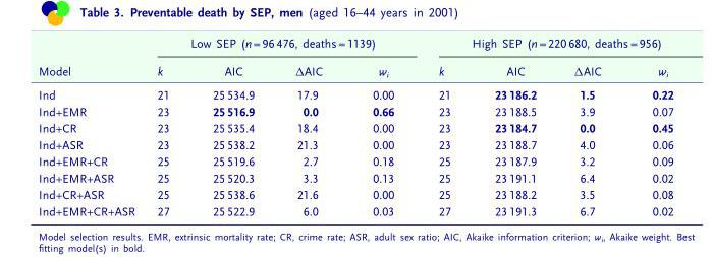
<table><thead><tr><td rowspan="2">Model</td><td colspan="4">Low SEP (n = 96 476, deaths = 1139)</td><td colspan="4">High SEP (n = 220 680, deaths = 956)</td></tr><tr><td>k</td><td>AIC</td><td>ΔAIC</td><td>w<sub>i</sub></td><td>k</td><td>AIC</td><td>ΔAIC</td><td>w<sub>i</sub></td></tr></thead><tbody><tr><td>Ind</td><td>21</td><td>25 534.9</td><td>17.9</td><td>0.00</td><td>21</td><td>23 186.2</td><td>1.5</td><td>0.22</td></tr><tr><td>Ind+EMR</td><td>23</td><td>25 516.9</td><td>0.0</td><td>0.66</td><td>23</td><td>23 188.5</td><td>3.9</td><td>0.07</td></tr><tr><td>Ind+CR</td><td>23</td><td>25 535.4</td><td>18.4</td><td>0.00</td><td>23</td><td>23 184.7</td><td>0.0</td><td>0.45</td></tr><tr><td>Ind+ASR</td><td>23</td><td>25 538.2</td><td>21.3</td><td>0.00</td><td>23</td><td>23 188.7</td><td>4.0</td><td>0.06</td></tr><tr><td>Ind+EMR+CR</td><td>25</td><td>25 519.6</td><td>2.7</td><td>0.18</td><td>25</td><td>23 187.9</td><td>3.2</td><td>0.09</td></tr><tr><td>Ind+EMR+ASR</td><td>25</td><td>25 520.3</td><td>3.3</td><td>0.13</td><td>25</td><td>23 191.1</td><td>6.4</td><td>0.02</td></tr><tr><td>Ind+CR+ASR</td><td>25</td><td>25 538.6</td><td>21.6</td><td>0.00</td><td>25</td><td>23 188.2</td><td>3.5</td><td>0.08</td></tr><tr><td>Ind+EMR+CR+ASR</td><td>27</td><td>25 522.9</td><td>6.0</td><td>0.03</td><td>27</td><td>23 191.3</td><td>6.7</td><td>0.02</td></tr></tbody></table>